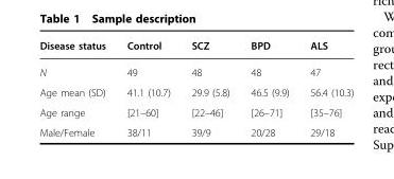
<table><thead><tr><td>Disease status</td><td>Control</td><td>SCZ</td><td>BPD</td><td>ALS</td></tr></thead><tbody><tr><td>N</td><td>49</td><td>48</td><td>48</td><td>47</td></tr><tr><td>Age mean (SD)</td><td>41.1 (10.7)</td><td>29.9 (5.8)</td><td>46.5 (9.9)</td><td>56.4 (10.3)</td></tr><tr><td>Age range</td><td>[21–60]</td><td>[22–46]</td><td>[26–71]</td><td>[35–76]</td></tr><tr><td>Male/Female</td><td>38/11</td><td>39/9</td><td>20/28</td><td>29/18</td></tr></tbody></table>